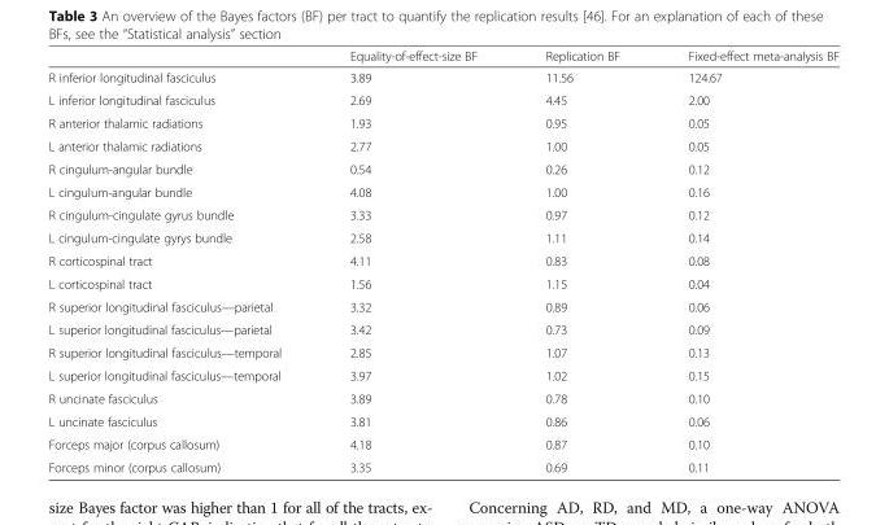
<table><thead><tr><td></td><td>Equality-of-effect-size BF</td><td>Replication BF</td><td>Fixed-effect meta-analysis BF</td></tr></thead><tbody><tr><td>R inferior longitudinal fasciculus</td><td>3.89</td><td>11.56</td><td>124.67</td></tr><tr><td>L inferior longitudinal fasciculus</td><td>2.69</td><td>4.45</td><td>2.00</td></tr><tr><td>R anterior thalamic radiations</td><td>1.93</td><td>0.95</td><td>0.05</td></tr><tr><td>L anterior thalamic radiations</td><td>2.77</td><td>1.00</td><td>0.05</td></tr><tr><td>R cingulum-angular bundle</td><td>0.54</td><td>0.26</td><td>0.12</td></tr><tr><td>L cingulum-angular bundle</td><td>4.08</td><td>1.00</td><td>0.16</td></tr><tr><td>R cingulum-cingulate gyrus bundle</td><td>3.33</td><td>0.97</td><td>0.12</td></tr><tr><td>L cingulum-cingulate gyrys bundle</td><td>2.58</td><td>1.11</td><td>0.14</td></tr><tr><td>R corticospinal tract</td><td>4.11</td><td>0.83</td><td>0.08</td></tr><tr><td>L corticospinal tract</td><td>1.56</td><td>1.15</td><td>0.04</td></tr><tr><td>R superior longitudinal fasciculus—parietal</td><td>3.32</td><td>0.89</td><td>0.06</td></tr><tr><td>L superior longitudinal fasciculus—parietal</td><td>3.42</td><td>0.73</td><td>0.09</td></tr><tr><td>R superior longitudinal fasciculus—temporal</td><td>2.85</td><td>1.07</td><td>0.13</td></tr><tr><td>L superior longitudinal fasciculus—temporal</td><td>3.97</td><td>1.02</td><td>0.15</td></tr><tr><td>R uncinate fasciculus</td><td>3.89</td><td>0.78</td><td>0.10</td></tr><tr><td>L uncinate fasciculus</td><td>3.81</td><td>0.86</td><td>0.06</td></tr><tr><td>Forceps major (corpus callosum)</td><td>4.18</td><td>0.87</td><td>0.10</td></tr><tr><td>Forceps minor (corpus callosum)</td><td>3.35</td><td>0.69</td><td>0.11</td></tr></tbody></table>